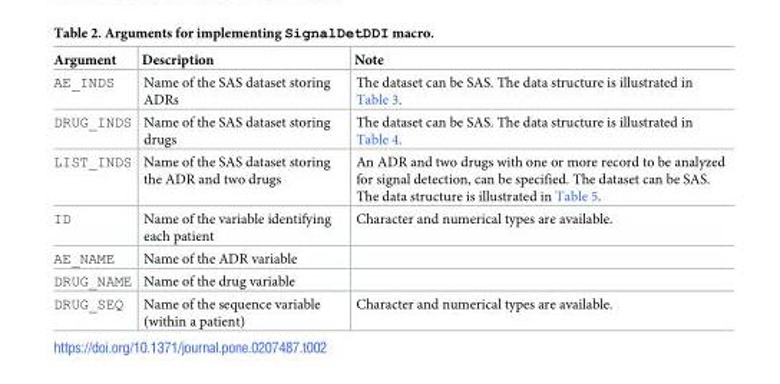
<table><thead><tr><td>Argument</td><td>Description</td><td>Note</td></tr></thead><tbody><tr><td>AE_INDS</td><td>Name of the SAS dataset storing ADRs</td><td>The dataset can be SAS. The data structure is illustrated in Table 3.</td></tr><tr><td>DRUG_INDS</td><td>Name of the SAS dataset storing drugs</td><td>The dataset can be SAS. The data structure is illustrated in Table 4.</td></tr><tr><td>LIST_INDS</td><td>Name of the SAS dataset storing the ADR and two drugs</td><td>An ADR and two drugs with one or more record to be analyzed for signal detection, can be specified. The dataset can be SAS. The data structure is illustrated in Table 5.</td></tr><tr><td>ID</td><td>Name of the variable identifying each patient</td><td>Character and numerical types are available.</td></tr><tr><td>AE_NAME</td><td>Name of the ADR variable</td><td></td></tr><tr><td>DRUG_NAME</td><td>Name of the drug variable</td><td></td></tr><tr><td>DRUG_SEQ</td><td>Name of the sequence variable (within a patient)</td><td>Character and numerical types are available.</td></tr></tbody></table>